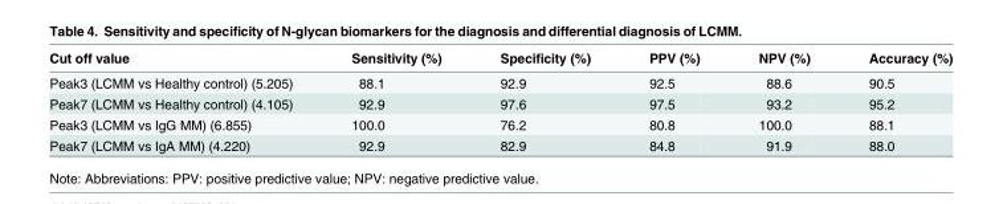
<table><thead><tr><td>Cut off value</td><td>Sensitivity (%)</td><td>Specificity (%)</td><td>PPV (%)</td><td>NPV (%)</td><td>Accuracy (%)</td></tr></thead><tbody><tr><td>Peak3 (LCMM vs Healthy control) (5.205)</td><td>88.1</td><td>92.9</td><td>92.5</td><td>88.6</td><td>90.5</td></tr><tr><td>Peak7 (LCMM vs Healthy control) (4.105)</td><td>92.9</td><td>97.6</td><td>97.5</td><td>93.2</td><td>95.2</td></tr><tr><td>Peak3 (LCMM vs IgG MM) (6.855)</td><td>100.0</td><td>76.2</td><td>80.8</td><td>100.0</td><td>88.1</td></tr><tr><td>Peak7 (LCMM vs IgA MM) (4.220)</td><td>92.9</td><td>82.9</td><td>84.8</td><td>91.9</td><td>88.0</td></tr></tbody></table>